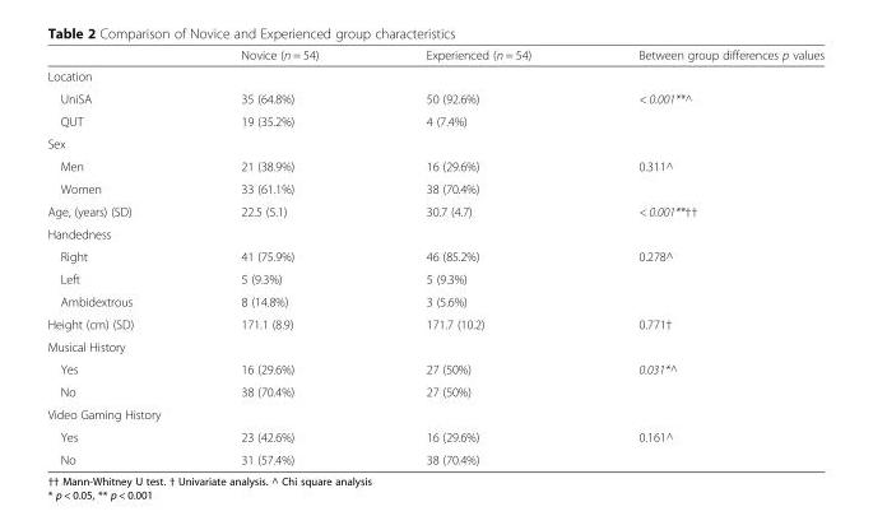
<table><thead><tr><td></td><td>Novice (n = 54)</td><td>Experienced (n = 54)</td><td>Between group differences p values</td></tr></thead><tbody><tr><td colspan="4">Location</td></tr><tr><td>UniSA</td><td>35 (64.8%)</td><td>50 (92.6%)</td><td rowspan="2">&lt; 0.001**^</td></tr><tr><td>QUT</td><td>19 (35.2%)</td><td>4 (7.4%)</td></tr><tr><td colspan="4">Sex</td></tr><tr><td>Men</td><td>21 (38.9%)</td><td>16 (29.6%)</td><td rowspan="2">0.311^</td></tr><tr><td>Women</td><td>33 (61.1%)</td><td>38 (70.4%)</td></tr><tr><td>Age, (years) (SD)</td><td>22.5 (5.1)</td><td>30.7 (4.7)</td><td>&lt; 0.001**††</td></tr><tr><td colspan="4">Handedness</td></tr><tr><td>Right</td><td>41 (75.9%)</td><td>46 (85.2%)</td><td rowspan="3">0.278^</td></tr><tr><td>Left</td><td>5 (9.3%)</td><td>5 (9.3%)</td></tr><tr><td>Ambidextrous</td><td>8 (14.8%)</td><td>3 (5.6%)</td></tr><tr><td>Height (cm) (SD)</td><td>171.1 (8.9)</td><td>171.7 (10.2)</td><td>0.771†</td></tr><tr><td colspan="4">Musical History</td></tr><tr><td>Yes</td><td>16 (29.6%)</td><td>27 (50%)</td><td rowspan="2">0.031*^</td></tr><tr><td>No</td><td>38 (70.4%)</td><td>27 (50%)</td></tr><tr><td colspan="4">Video Gaming History</td></tr><tr><td>Yes</td><td>23 (42.6%)</td><td>16 (29.6%)</td><td rowspan="2">0.161^</td></tr><tr><td>No</td><td>31 (57.4%)</td><td>38 (70.4%)</td></tr></tbody></table>